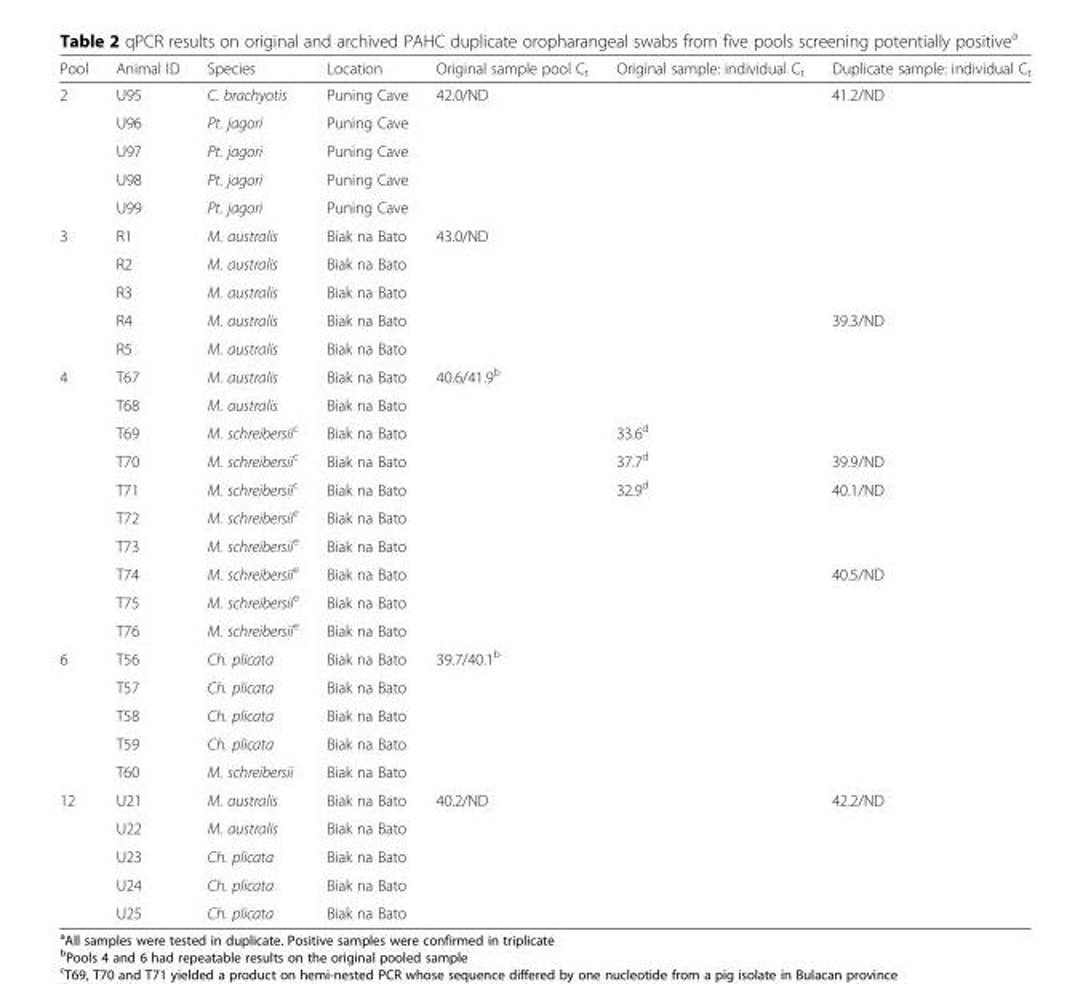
<table><thead><tr><td>Pool</td><td>Animal ID</td><td>Species</td><td>Location</td><td>Original sample pool C<sub>t</sub></td><td>Original sample: individual C<sub>t</sub></td><td>Duplicate sample: individual C<sub>t</sub></td></tr></thead><tbody><tr><td rowspan="5">2</td><td>U95</td><td>C. brachyotis</td><td>Puning Cave</td><td rowspan="5">42.0/ND</td><td></td><td>41.2/ND</td></tr><tr><td>U96</td><td>Pt. jagori</td><td>Puning Cave</td><td></td><td></td></tr><tr><td>U97</td><td>Pt. jagori</td><td>Puning Cave</td><td></td><td></td></tr><tr><td>U98</td><td>Pt. jagori</td><td>Puning Cave</td><td></td><td></td></tr><tr><td>U99</td><td>Pt. jagori</td><td>Puning Cave</td><td></td><td></td></tr><tr><td rowspan="5">3</td><td>R1</td><td>M. australis</td><td>Biak na Bato</td><td rowspan="5">43.0/ND</td><td></td><td></td></tr><tr><td>R2</td><td>M. australis</td><td>Biak na Bato</td><td></td><td></td></tr><tr><td>R3</td><td>M. australis</td><td>Biak na Bato</td><td></td><td></td></tr><tr><td>R4</td><td>M. australis</td><td>Biak na Bato</td><td></td><td>39.3/ND</td></tr><tr><td>R5</td><td>M. australis</td><td>Biak na Bato</td><td></td><td></td></tr><tr><td rowspan="10">4</td><td>T67</td><td>M. australis</td><td>Biak na Bato</td><td>40.6/41.9<sup>b</sup></td><td></td><td></td></tr><tr><td>T68</td><td>M. australis</td><td>Biak na Bato</td><td></td><td></td><td></td></tr><tr><td>T69</td><td>M. schreibersii<sup>c</sup></td><td>Biak na Bato</td><td></td><td>33.6<sup>d</sup></td><td></td></tr><tr><td>T70</td><td>M. schreibersii<sup>c</sup></td><td>Biak na Bato</td><td></td><td>37.7<sup>d</sup></td><td>39.9/ND</td></tr><tr><td>T71</td><td>M. schreibersii<sup>c</sup></td><td>Biak na Bato</td><td></td><td>32.9<sup>d</sup></td><td>40.1/ND</td></tr><tr><td>T72</td><td>M. schreibersii<sup>e</sup></td><td>Biak na Bato</td><td></td><td></td><td></td></tr><tr><td>T73</td><td>M. schreibersii<sup>e</sup></td><td>Biak na Bato</td><td></td><td></td><td></td></tr><tr><td>T74</td><td>M. schreibersii<sup>e</sup></td><td>Biak na Bato</td><td></td><td></td><td>40.5/ND</td></tr><tr><td>T75</td><td>M. schreibersii<sup>e</sup></td><td>Biak na Bato</td><td></td><td></td><td></td></tr><tr><td>T76</td><td>M. schreibersii<sup>e</sup></td><td>Biak na Bato</td><td></td><td></td><td></td></tr><tr><td rowspan="5">6</td><td>T56</td><td>Ch. plicata</td><td>Biak na Bato</td><td>39.7/40.1<sup>b</sup></td><td></td><td></td></tr><tr><td>T57</td><td>Ch. plicata</td><td>Biak na Bato</td><td></td><td></td><td></td></tr><tr><td>T58</td><td>Ch. plicata</td><td>Biak na Bato</td><td></td><td></td><td></td></tr><tr><td>T59</td><td>Ch. plicata</td><td>Biak na Bato</td><td></td><td></td><td></td></tr><tr><td>T60</td><td>M. schreibersii</td><td>Biak na Bato</td><td></td><td></td><td></td></tr><tr><td rowspan="5">12</td><td>U21</td><td>M. australis</td><td>Biak na Bato</td><td rowspan="5">40.2/ND</td><td></td><td>42.2/ND</td></tr><tr><td>U22</td><td>M. australis</td><td>Biak na Bato</td><td></td><td></td></tr><tr><td>U23</td><td>Ch. plicata</td><td>Biak na Bato</td><td></td><td></td></tr><tr><td>U24</td><td>Ch. plicata</td><td>Biak na Bato</td><td></td><td></td></tr><tr><td>U25</td><td>Ch. plicata</td><td>Biak na Bato</td><td></td><td></td></tr></tbody></table>